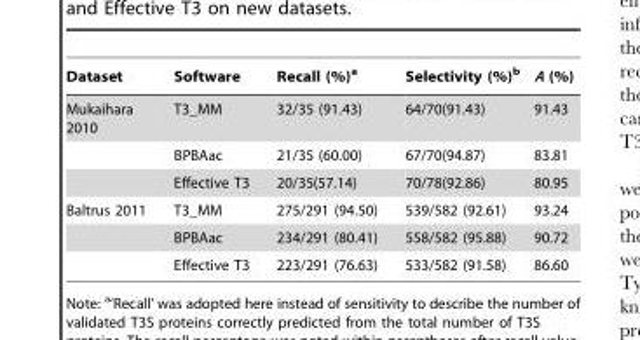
<table><thead><tr><td>Dataset</td><td>Software</td><td>Recall (%)<sup>a</sup></td><td>Selectivity (%)<sup>b</sup></td><td>A (%)</td></tr></thead><tbody><tr><td rowspan="3">Mukaihara 2010</td><td>T3_MM</td><td>32/35 (91.43)</td><td>64/70(91.43)</td><td>91.43</td></tr><tr><td>BPBAac</td><td>21/35 (60.00)</td><td>67/70(94.87)</td><td>83.81</td></tr><tr><td>Effective T3</td><td>20/35(57.14)</td><td>70/78(92.86)</td><td>80.95</td></tr><tr><td rowspan="3">Baltrus 2011</td><td>T3_MM</td><td>275/291 (94.50)</td><td>539/582 (92.61)</td><td>93.24</td></tr><tr><td>BPBAac</td><td>234/291 (80.41)</td><td>558/582 (95.88)</td><td>90.72</td></tr><tr><td>Effective T3</td><td>223/291 (76.63)</td><td>533/582 (91.58)</td><td>86.60</td></tr></tbody></table>